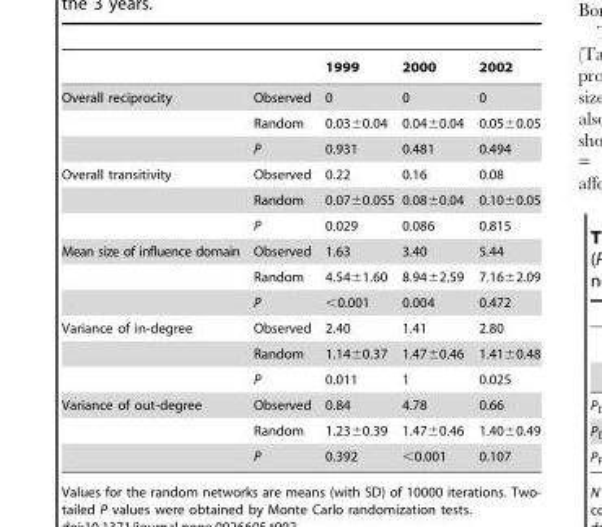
<table><thead><tr><td></td><td></td><td>1999</td><td>2000</td><td>2002</td></tr></thead><tbody><tr><td rowspan="3">Overall reciprocity</td><td>Observed</td><td>0</td><td>0</td><td>0</td></tr><tr><td>Random</td><td>0.03±0.04</td><td>0.04±0.04</td><td>0.05±0.05</td></tr><tr><td>P</td><td>0.931</td><td>0.481</td><td>0.494</td></tr><tr><td rowspan="3">Overall transitivity</td><td>Observed</td><td>0.22</td><td>0.16</td><td>0.08</td></tr><tr><td>Random</td><td>0.07±0.055</td><td>0.08±0.04</td><td>0.10±0.05</td></tr><tr><td>P</td><td>0.029</td><td>0.086</td><td>0.815</td></tr><tr><td rowspan="3">Mean size of influence domain</td><td>Observed</td><td>1.63</td><td>3.40</td><td>5.44</td></tr><tr><td>Random</td><td>4.54±1.60</td><td>8.94±2.59</td><td>7.16±2.09</td></tr><tr><td>P</td><td>&lt;0.001</td><td>0.004</td><td>0.472</td></tr><tr><td rowspan="3">Variance of in-degree</td><td>Observed</td><td>2.40</td><td>1.41</td><td>2.80</td></tr><tr><td>Random</td><td>1.14±0.37</td><td>1.47±0.46</td><td>1.41±0.48</td></tr><tr><td>P</td><td>0.011</td><td>1</td><td>0.025</td></tr><tr><td rowspan="3">Variance of out-degree</td><td>Observed</td><td>0.84</td><td>4.78</td><td>0.66</td></tr><tr><td>Random</td><td>1.23±0.39</td><td>1.47±0.46</td><td>1.40±0.49</td></tr><tr><td>P</td><td>0.392</td><td>&lt;0.001</td><td>0.107</td></tr></tbody></table>